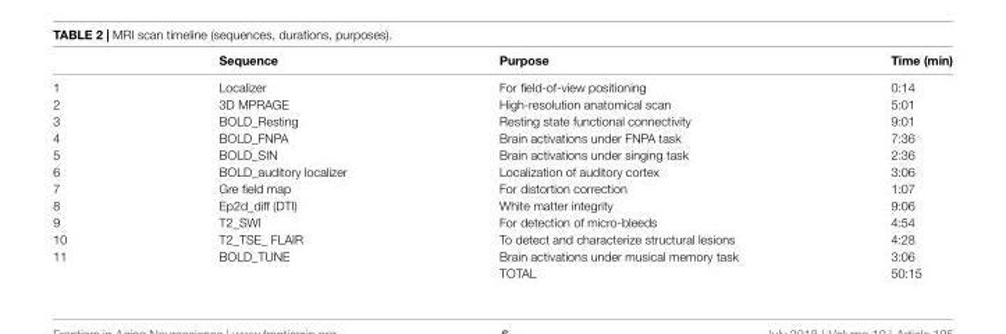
<table><thead><tr><td></td><td>Sequence</td><td>Purpose</td><td>Time (min)</td></tr></thead><tbody><tr><td>1</td><td>Localizer</td><td>For field-of-view positioning</td><td>0:14</td></tr><tr><td>2</td><td>3D MPRAGE</td><td>High-resolution anatomical scan</td><td>5:01</td></tr><tr><td>3</td><td>BOLD_Resting</td><td>Resting state functional connectivity</td><td>9:01</td></tr><tr><td>4</td><td>BOLD_FNPA</td><td>Brain activations under FNPA task</td><td>7:36</td></tr><tr><td>5</td><td>BOLD_SIN</td><td>Brain activations under singing task</td><td>2:36</td></tr><tr><td>6</td><td>BOLD_auditory localizer</td><td>Localization of auditory cortex</td><td>3:06</td></tr><tr><td>7</td><td>Gre field map</td><td>For distortion correction</td><td>1:07</td></tr><tr><td>8</td><td>Ep2d_diff (DTI)</td><td>White matter integrity</td><td>9:06</td></tr><tr><td>9</td><td>T2_SWI</td><td>For detection of micro-bleeds</td><td>4:54</td></tr><tr><td>10</td><td>T2_TSE_ FLAIR</td><td>To detect and characterize structural lesions</td><td>4:28</td></tr><tr><td rowspan="2">11</td><td>BOLD_TUNE</td><td>Brain activations under musical memory task</td><td>3:06</td></tr><tr><td></td><td>TOTAL</td><td>50:15</td></tr></tbody></table>